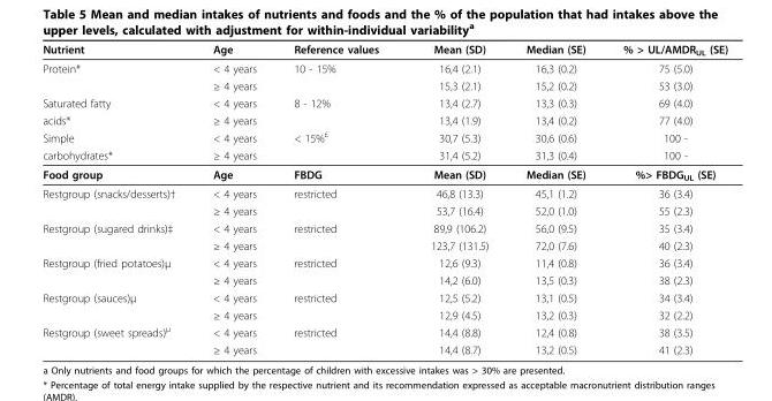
<table><thead><tr><td>Nutrient</td><td>Age</td><td>Reference values</td><td>Mean (SD)</td><td>Median (SE)</td><td>% &gt; UL/AMDR<sub>UL</sub> (SE)</td></tr></thead><tbody><tr><td rowspan="2">Protein*</td><td>&lt; 4 years</td><td>10 - 15%</td><td>16,4 (2.1)</td><td>16,3 (0.2)</td><td>75 (5.0)</td></tr><tr><td>≥ 4 years</td><td></td><td>15,3 (2.1)</td><td>15,2 (0.2)</td><td>53 (3.0)</td></tr><tr><td>Saturated fatty</td><td>&lt; 4 years</td><td>8 - 12%</td><td>13,4 (2.7)</td><td>13,3 (0.3)</td><td>69 (4.0)</td></tr><tr><td>acids*</td><td>≥ 4 years</td><td></td><td>13,4 (1.9)</td><td>13,4 (0.2)</td><td>77 (4.0)</td></tr><tr><td>Simple</td><td>&lt; 4 years</td><td>&lt; 15%<sup>£</sup></td><td>30,7 (5.3)</td><td>30,6 (0.6)</td><td>100 -</td></tr><tr><td>carbohydrates*</td><td>≥ 4 years</td><td></td><td>31,4 (5.2)</td><td>31,3 (0.4)</td><td>100 -</td></tr><tr><td>Food group</td><td>Age</td><td>FBDG</td><td>Mean (SD)</td><td>Median (SE)</td><td>%&gt; FBDG<sub>UL</sub> (SE)</td></tr><tr><td rowspan="2">Restgroup (snacks/desserts)†</td><td>&lt; 4 years</td><td>restricted</td><td>46,8 (13.3)</td><td>45,1 (1.2)</td><td>36 (3.4)</td></tr><tr><td>≥ 4 years</td><td></td><td>53,7 (16.4)</td><td>52,0 (1.0)</td><td>55 (2.3)</td></tr><tr><td rowspan="2">Restgroup (sugared drinks)‡</td><td>&lt; 4 years</td><td>restricted</td><td>89,9 (106.2)</td><td>56,0 (9.5)</td><td>35 (3.4)</td></tr><tr><td>≥ 4 years</td><td></td><td>123,7 (131.5)</td><td>72,0 (7.6)</td><td>40 (2.3)</td></tr><tr><td rowspan="2">Restgroup (fried potatoes)μ</td><td>&lt; 4 years</td><td>restricted</td><td>12,6 (9.3)</td><td>11,4 (0.8)</td><td>36 (3.4)</td></tr><tr><td>≥ 4 years</td><td></td><td>14,2 (6.0)</td><td>13,5 (0.3)</td><td>38 (2.3)</td></tr><tr><td rowspan="2">Restgroup (sauces)μ</td><td>&lt; 4 years</td><td>restricted</td><td>12,5 (5.2)</td><td>13,1 (0.5)</td><td>34 (3.4)</td></tr><tr><td>≥ 4 years</td><td></td><td>12,9 (4.5)</td><td>13,2 (0.3)</td><td>32 (2.2)</td></tr><tr><td rowspan="2">Restgroup (sweet spreads)<sup>μ</sup></td><td>&lt; 4 years</td><td>restricted</td><td>14,4 (8.8)</td><td>12,4 (0.8)</td><td>38 (3.5)</td></tr><tr><td>≥ 4 years</td><td></td><td>14,4 (8.7)</td><td>13,2 (0.5)</td><td>41 (2.3)</td></tr></tbody></table>